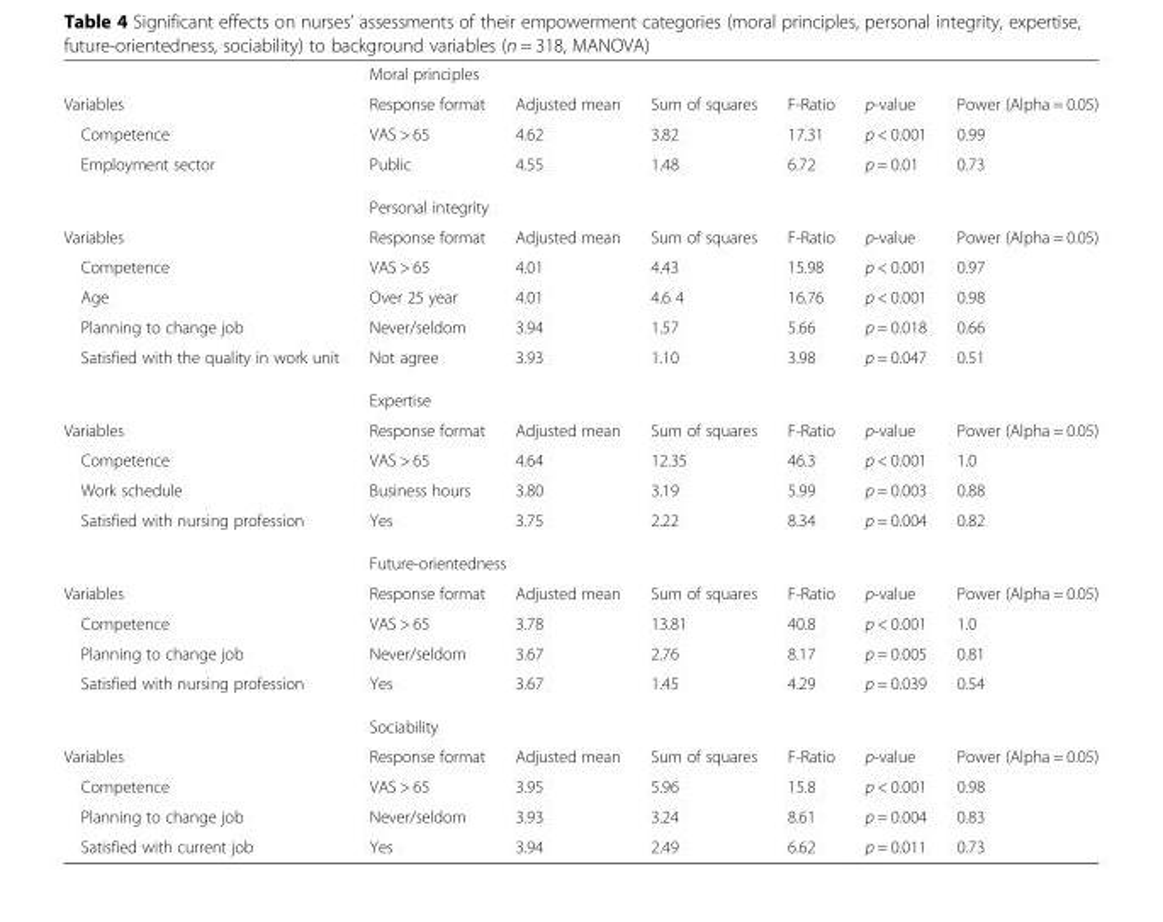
<table><thead><tr><td rowspan="2">Variables</td><td colspan="6">Moral principles</td></tr><tr><td>Response format</td><td>Adjusted mean</td><td>Sum of squares</td><td>F-Ratio</td><td>p-value</td><td>Power (Alpha = 0.05)</td></tr></thead><tbody><tr><td>Competence</td><td>VAS &gt; 65</td><td>4.62</td><td>3.82</td><td>17.31</td><td>p &lt; 0.001</td><td>0.99</td></tr><tr><td rowspan="2">Employment sector</td><td>Public</td><td>4.55</td><td>1.48</td><td>6.72</td><td>p = 0.01</td><td>0.73</td></tr><tr><td colspan="6">Personal integrity</td></tr><tr><td>Variables</td><td>Response format</td><td>Adjusted mean</td><td>Sum of squares</td><td>F-Ratio</td><td>p-value</td><td>Power (Alpha = 0.05)</td></tr><tr><td>Competence</td><td>VAS &gt; 65</td><td>4.01</td><td>4.43</td><td>15.98</td><td>p &lt; 0.001</td><td>0.97</td></tr><tr><td>Age</td><td>Over 25 year</td><td>4.01</td><td>4.6 4</td><td>16.76</td><td>p &lt; 0.001</td><td>0.98</td></tr><tr><td>Planning to change job</td><td>Never/seldom</td><td>3.94</td><td>1.57</td><td>5.66</td><td>p = 0.018</td><td>0.66</td></tr><tr><td rowspan="2">Satisfied with the quality in work unit</td><td>Not agree</td><td>3.93</td><td>1.10</td><td>3.98</td><td>p = 0.047</td><td>0.51</td></tr><tr><td colspan="6">Expertise</td></tr><tr><td>Variables</td><td>Response format</td><td>Adjusted mean</td><td>Sum of squares</td><td>F-Ratio</td><td>p-value</td><td>Power (Alpha = 0.05)</td></tr><tr><td>Competence</td><td>VAS &gt; 65</td><td>4.64</td><td>12.35</td><td>46.3</td><td>p &lt; 0.001</td><td>1.0</td></tr><tr><td>Work schedule</td><td>Business hours</td><td>3.80</td><td>3.19</td><td>5.99</td><td>p = 0.003</td><td>0.88</td></tr><tr><td rowspan="2">Satisfied with nursing profession</td><td>Yes</td><td>3.75</td><td>2.22</td><td>8.34</td><td>p = 0.004</td><td>0.82</td></tr><tr><td colspan="6">Future-orientedness</td></tr><tr><td>Variables</td><td>Response format</td><td>Adjusted mean</td><td>Sum of squares</td><td>F-Ratio</td><td>p-value</td><td>Power (Alpha = 0.05)</td></tr><tr><td>Competence</td><td>VAS &gt; 65</td><td>3.78</td><td>13.81</td><td>40.8</td><td>p &lt; 0.001</td><td>1.0</td></tr><tr><td>Planning to change job</td><td>Never/seldom</td><td>3.67</td><td>2.76</td><td>8.17</td><td>p = 0.005</td><td>0.81</td></tr><tr><td rowspan="2">Satisfied with nursing profession</td><td>Yes</td><td>3.67</td><td>1.45</td><td>4.29</td><td>p = 0.039</td><td>0.54</td></tr><tr><td colspan="6">Sociability</td></tr><tr><td>Variables</td><td>Response format</td><td>Adjusted mean</td><td>Sum of squares</td><td>F-Ratio</td><td>p-value</td><td>Power (Alpha = 0.05)</td></tr><tr><td>Competence</td><td>VAS &gt; 65</td><td>3.95</td><td>5.96</td><td>15.8</td><td>p &lt; 0.001</td><td>0.98</td></tr><tr><td>Planning to change job</td><td>Never/seldom</td><td>3.93</td><td>3.24</td><td>8.61</td><td>p = 0.004</td><td>0.83</td></tr><tr><td>Satisfied with current job</td><td>Yes</td><td>3.94</td><td>2.49</td><td>6.62</td><td>p = 0.011</td><td>0.73</td></tr></tbody></table>